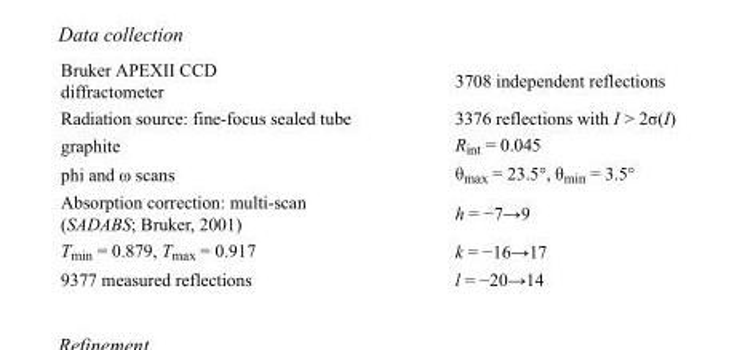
<table><tbody><tr><td>Bruker APEXII CCD diffractometer</td><td>3708 independent reflections</td></tr><tr><td>Radiation source: fine-focus sealed tube</td><td>3376 reflections with I &gt; 2σ(I)</td></tr><tr><td>graphite</td><td>R<sub>int</sub> = 0.045</td></tr><tr><td>phi and ω scans</td><td>θ<sub>max</sub> = 23.5°, θ<sub>min</sub> = 3.5°</td></tr><tr><td>Absorption correction: multi-scan (SADABS; Bruker, 2001)</td><td>h = −7→9</td></tr><tr><td>T<sub>min</sub> = 0.879, T<sub>max</sub> = 0.917</td><td>k = −16→17</td></tr><tr><td>9377 measured reflections</td><td>l = −20→14</td></tr></tbody></table>